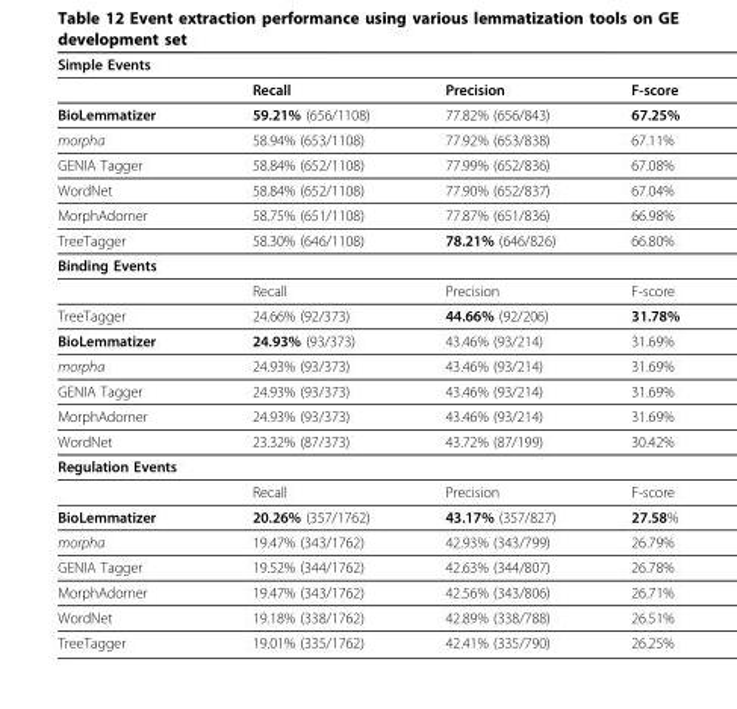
<table><thead><tr><td>Simple Events</td><td></td><td></td><td></td></tr></thead><tbody><tr><td></td><td>Recall</td><td>Precision</td><td>F-score</td></tr><tr><td>BioLemmatizer</td><td>59.21% (656/1108)</td><td>77.82% (656/843)</td><td>67.25%</td></tr><tr><td>morpha</td><td>58.94% (653/1108)</td><td>77.92% (653/838)</td><td>67.11%</td></tr><tr><td>GENIA Tagger</td><td>58.84% (652/1108)</td><td>77.99% (652/836)</td><td>67.08%</td></tr><tr><td>WordNet</td><td>58.84% (652/1108)</td><td>77.90% (652/837)</td><td>67.04%</td></tr><tr><td>MorphAdorner</td><td>58.75% (651/1108)</td><td>77.87% (651/836)</td><td>66.98%</td></tr><tr><td>TreeTagger</td><td>58.30% (646/1108)</td><td>78.21% (646/826)</td><td>66.80%</td></tr><tr><td colspan="4">Binding Events</td></tr><tr><td></td><td>Recall</td><td>Precision</td><td>F-score</td></tr><tr><td>TreeTagger</td><td>24.66% (92/373)</td><td>44.66% (92/206)</td><td>31.78%</td></tr><tr><td>BioLemmatizer</td><td>24.93% (93/373)</td><td>43.46% (93/214)</td><td>31.69%</td></tr><tr><td>morpha</td><td>24.93% (93/373)</td><td>43.46% (93/214)</td><td>31.69%</td></tr><tr><td>GENIA Tagger</td><td>24.93% (93/373)</td><td>43.46% (93/214)</td><td>31.69%</td></tr><tr><td>MorphAdorner</td><td>24.93% (93/373)</td><td>43.46% (93/214)</td><td>31.69%</td></tr><tr><td>WordNet</td><td>23.32% (87/373)</td><td>43.72% (87/199)</td><td>30.42%</td></tr><tr><td colspan="4">Regulation Events</td></tr><tr><td></td><td>Recall</td><td>Precision</td><td>F-score</td></tr><tr><td>BioLemmatizer</td><td>20.26% (357/1762)</td><td>43.17% (357/827)</td><td>27.58%</td></tr><tr><td>morpha</td><td>19.47% (343/1762)</td><td>42.93% (343/799)</td><td>26.79%</td></tr><tr><td>GENIA Tagger</td><td>19.52% (344/1762)</td><td>42.63% (344/807)</td><td>26.78%</td></tr><tr><td>MorphAdorner</td><td>19.47% (343/1762)</td><td>42.56% (343/806)</td><td>26.71%</td></tr><tr><td>WordNet</td><td>19.18% (338/1762)</td><td>42.89% (338/788)</td><td>26.51%</td></tr><tr><td>TreeTagger</td><td>19.01% (335/1762)</td><td>42.41% (335/790)</td><td>26.25%</td></tr></tbody></table>